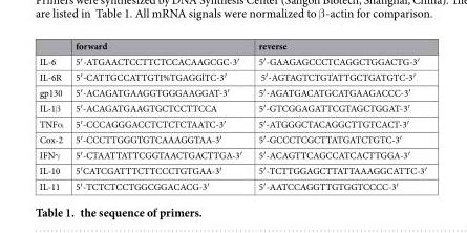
<table><thead><tr><td></td><td>forward</td><td>reverse</td></tr></thead><tbody><tr><td>IL-6</td><td>5′ -ATGAACTCCTTCTCCACAAGCGC-3′</td><td>5′ -GAAGAGCCCTCAGGCTGGACTG-3′</td></tr><tr><td>IL-6R</td><td>5′ -CATTGCCATTGTI%TGAGGlTC-3′</td><td>5′ -AGTAGTCTGTATTGCTGATGTC-3′</td></tr><tr><td>gp130</td><td>5′ -ACAGATGAAGGTGGGAAGGAT-3′</td><td>5′ -AGATGACATGCATGAAGACCC-3′</td></tr><tr><td>IL-1β</td><td>5′ -ACAGATGAAGTGCTCCTTCCA</td><td>5′ -GTCGGAGATTCGTAGCTGGAT-3′</td></tr><tr><td>TNFα</td><td>5′ -CCCAGGGACCTCTCTCTAATC-3′</td><td>5′ -ATGGGCTACAGGCTTGTCACT-3′</td></tr><tr><td>Cox-2</td><td>5′ -CCCTTGGGTGTCAAAGGTAA-3′</td><td>5′ -GCCCTCGCTTATGATCTGTC-3′</td></tr><tr><td>IFNγ</td><td>5′ -CTAATTATTCGGTAACTGACTTGA-3′</td><td>5′ -ACAGTTCAGCCATCACTTGGA-3′</td></tr><tr><td>IL-10</td><td>5′ CATCGATTTCTTCCCTGTGAA-3′</td><td>5′ -TCTTGGAGCTTATTAAAGGCATTC-3′</td></tr><tr><td>IL-11</td><td>5′ -TCTCTCCTGGCGGACACG-3′</td><td>5′ -AATCCAGGTTGTGGTCCCC-3′</td></tr></tbody></table>